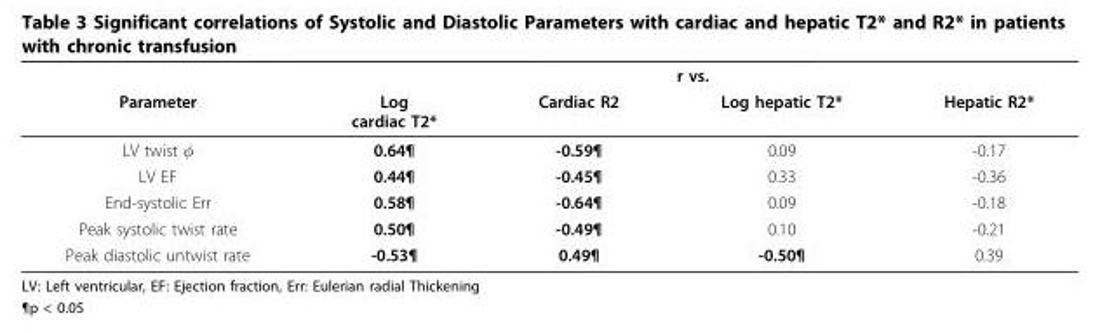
<table><thead><tr><td rowspan="2">Parameter</td><td colspan="4">r vs.</td></tr><tr><td>Log cardiac T2*</td><td>Cardiac R2</td><td>Log hepatic T2*</td><td>Hepatic R2*</td></tr></thead><tbody><tr><td>LV twist φ</td><td>0.64¶</td><td>-0.59¶</td><td>0.09</td><td>-0.17</td></tr><tr><td>LV EF</td><td>0.44¶</td><td>-0.45¶</td><td>0.33</td><td>-0.36</td></tr><tr><td>End-systolic Err</td><td>0.58¶</td><td>-0.64¶</td><td>0.09</td><td>-0.18</td></tr><tr><td>Peak systolic twist rate</td><td>0.50¶</td><td>-0.49¶</td><td>0.10</td><td>-0.21</td></tr><tr><td>Peak diastolic untwist rate</td><td>-0.53¶</td><td>0.49¶</td><td>-0.50¶</td><td>0.39</td></tr></tbody></table>